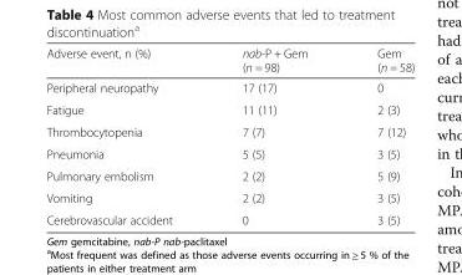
<table><thead><tr><td>Adverse event, n (%)</td><td>nab-P + Gem (n = 98)</td><td>Gem (n = 58)</td></tr></thead><tbody><tr><td>Peripheral neuropathy</td><td>17 (17)</td><td>0</td></tr><tr><td>Fatigue</td><td>11 (11)</td><td>2 (3)</td></tr><tr><td>Thrombocytopenia</td><td>7 (7)</td><td>7 (12)</td></tr><tr><td>Pneumonia</td><td>5 (5)</td><td>3 (5)</td></tr><tr><td>Pulmonary embolism</td><td>2 (2)</td><td>5 (9)</td></tr><tr><td>Vomiting</td><td>2 (2)</td><td>3 (5)</td></tr><tr><td>Cerebrovascular accident</td><td>0</td><td>3 (5)</td></tr></tbody></table>